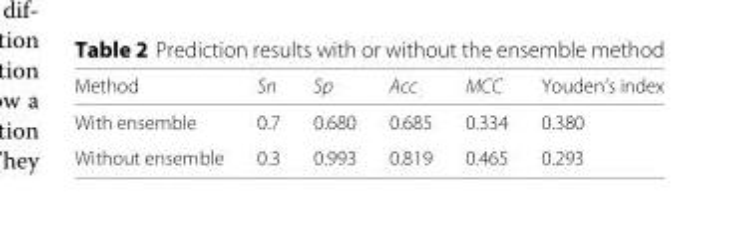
<table><thead><tr><td>Method</td><td>Sn</td><td>Sp</td><td>Acc</td><td>MCC</td><td>Youden’s index</td></tr></thead><tbody><tr><td>With ensemble</td><td>0.7</td><td>0.680</td><td>0.685</td><td>0.334</td><td>0.380</td></tr><tr><td>Without ensemble</td><td>0.3</td><td>0.993</td><td>0.819</td><td>0.465</td><td>0.293</td></tr></tbody></table>